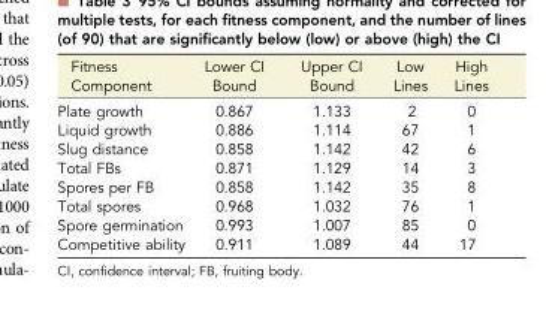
<table><thead><tr><td>Fitness Component</td><td>Lower CI Bound</td><td>Upper CI Bound</td><td>Low Lines</td><td>High Lines</td></tr></thead><tbody><tr><td>Plate growth</td><td>0.867</td><td>1.133</td><td>2</td><td>0</td></tr><tr><td>Liquid growth</td><td>0.886</td><td>1.114</td><td>67</td><td>1</td></tr><tr><td>Slug distance</td><td>0.858</td><td>1.142</td><td>42</td><td>6</td></tr><tr><td>Total FBs</td><td>0.871</td><td>1.129</td><td>14</td><td>3</td></tr><tr><td>Spores per FB</td><td>0.858</td><td>1.142</td><td>35</td><td>8</td></tr><tr><td>Total spores</td><td>0.968</td><td>1.032</td><td>76</td><td>1</td></tr><tr><td>Spore germination</td><td>0.993</td><td>1.007</td><td>85</td><td>0</td></tr><tr><td>Competitive ability</td><td>0.911</td><td>1.089</td><td>44</td><td>17</td></tr></tbody></table>